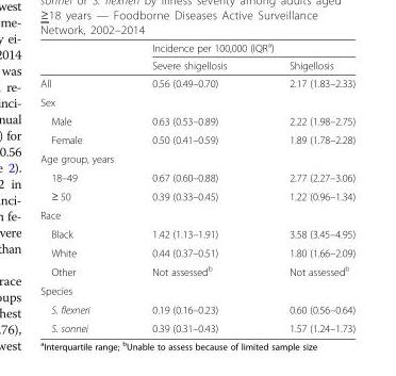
<table><thead><tr><td rowspan="2"></td><td colspan="2">Incidence per 100,000 (IQR<sup>a</sup>)</td></tr><tr><td>Severe shigellosis</td><td>Shigellosis</td></tr></thead><tbody><tr><td>All</td><td>0.56 (0.49–0.70)</td><td>2.17 (1.83–2.33)</td></tr><tr><td colspan="3">Sex</td></tr><tr><td>Male</td><td>0.63 (0.53–0.89)</td><td>2.22 (1.98–2.75)</td></tr><tr><td>Female</td><td>0.50 (0.41–0.59)</td><td>1.89 (1.78–2.28)</td></tr><tr><td colspan="3">Age group, years</td></tr><tr><td>18–49</td><td>0.67 (0.60–0.88)</td><td>2.77 (2.27–3.06)</td></tr><tr><td>≥ 50</td><td>0.39 (0.33–0.45)</td><td>1.22 (0.96–1.34)</td></tr><tr><td colspan="3">Race</td></tr><tr><td>Black</td><td>1.42 (1.13–1.91)</td><td>3.58 (3.45–4.95)</td></tr><tr><td>White</td><td>0.44 (0.37–0.51)</td><td>1.80 (1.66–2.09)</td></tr><tr><td>Other</td><td>Not assessed<sup>b</sup></td><td>Not assessed<sup>b</sup></td></tr><tr><td colspan="3">Species</td></tr><tr><td>S. flexneri</td><td>0.19 (0.16–0.23)</td><td>0.60 (0.56–0.64)</td></tr><tr><td>S. sonnei</td><td>0.39 (0.31–0.43)</td><td>1.57 (1.24–1.73)</td></tr></tbody></table>